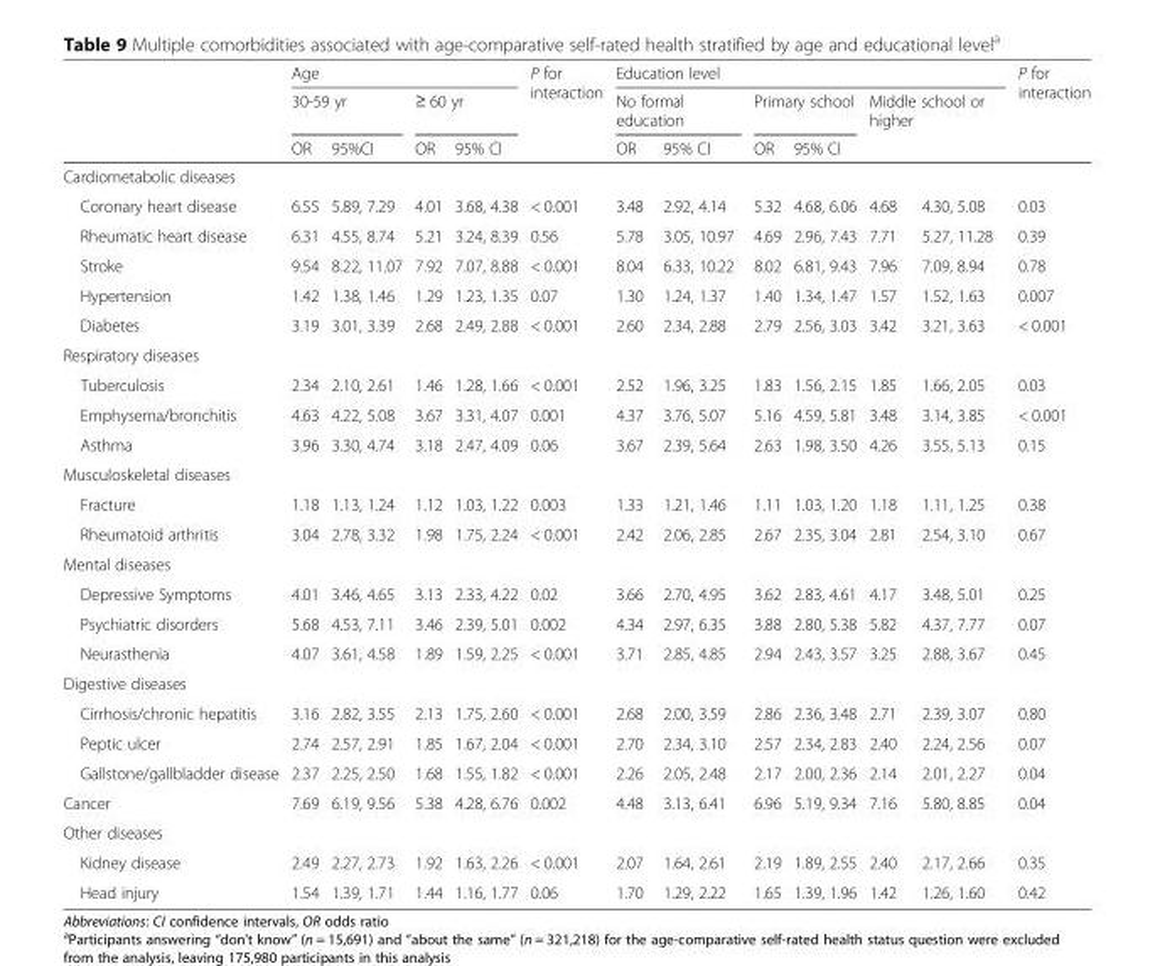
<table><thead><tr><td rowspan="3"></td><td colspan="4">Age</td><td rowspan="3">P for interaction</td><td colspan="6">Education level</td><td rowspan="3">P for interaction</td></tr><tr><td colspan="2">30-59 yr</td><td colspan="2">≥ 60 yr</td><td colspan="2">No formal education</td><td colspan="2">Primary school</td><td colspan="2">Middle school or higher</td></tr><tr><td>OR</td><td>95%CI</td><td>OR</td><td>95% CI</td><td>OR</td><td>95% CI</td><td>OR</td><td>95% CI</td><td></td><td></td></tr></thead><tbody><tr><td colspan="13">Cardiometabolic diseases</td></tr><tr><td>Coronary heart disease</td><td>6.55</td><td>5.89, 7.29</td><td>4.01</td><td>3.68, 4.38</td><td>&lt; 0.001</td><td>3.48</td><td>2.92, 4.14</td><td>5.32</td><td>4.68, 6.06</td><td>4.68</td><td>4.30, 5.08</td><td>0.03</td></tr><tr><td>Rheumatic heart disease</td><td>6.31</td><td>4.55, 8.74</td><td>5.21</td><td>3.24, 8.39</td><td>0.56</td><td>5.78</td><td>3.05, 10.97</td><td>4.69</td><td>2.96, 7.43</td><td>7.71</td><td>5.27, 11.28</td><td>0.39</td></tr><tr><td>Stroke</td><td>9.54</td><td>8.22, 11.07</td><td>7.92</td><td>7.07, 8.88</td><td>&lt; 0.001</td><td>8.04</td><td>6.33, 10.22</td><td>8.02</td><td>6.81, 9.43</td><td>7.96</td><td>7.09, 8.94</td><td>0.78</td></tr><tr><td>Hypertension</td><td>1.42</td><td>1.38, 1.46</td><td>1.29</td><td>1.23, 1.35</td><td>0.07</td><td>1.30</td><td>1.24, 1.37</td><td>1.40</td><td>1.34, 1.47</td><td>1.57</td><td>1.52, 1.63</td><td>0.007</td></tr><tr><td>Diabetes</td><td>3.19</td><td>3.01, 3.39</td><td>2.68</td><td>2.49, 2.88</td><td>&lt; 0.001</td><td>2.60</td><td>2.34, 2.88</td><td>2.79</td><td>2.56, 3.03</td><td>3.42</td><td>3.21, 3.63</td><td>&lt; 0.001</td></tr><tr><td colspan="13">Respiratory diseases</td></tr><tr><td>Tuberculosis</td><td>2.34</td><td>2.10, 2.61</td><td>1.46</td><td>1.28, 1.66</td><td>&lt; 0.001</td><td>2.52</td><td>1.96, 3.25</td><td>1.83</td><td>1.56, 2.15</td><td>1.85</td><td>1.66, 2.05</td><td>0.03</td></tr><tr><td>Emphysema/bronchitis</td><td>4.63</td><td>4.22, 5.08</td><td>3.67</td><td>3.31, 4.07</td><td>0.001</td><td>4.37</td><td>3.76, 5.07</td><td>5.16</td><td>4.59, 5.81</td><td>3.48</td><td>3.14, 3.85</td><td>&lt; 0.001</td></tr><tr><td>Asthma</td><td>3.96</td><td>3.30, 4.74</td><td>3.18</td><td>2.47, 4.09</td><td>0.06</td><td>3.67</td><td>2.39, 5.64</td><td>2.63</td><td>1.98, 3.50</td><td>4.26</td><td>3.55, 5.13</td><td>0.15</td></tr><tr><td colspan="13">Musculoskeletal diseases</td></tr><tr><td>Fracture</td><td>1.18</td><td>1.13, 1.24</td><td>1.12</td><td>1.03, 1.22</td><td>0.003</td><td>1.33</td><td>1.21, 1.46</td><td>1.11</td><td>1.03, 1.20</td><td>1.18</td><td>1.11, 1.25</td><td>0.38</td></tr><tr><td>Rheumatoid arthritis</td><td>3.04</td><td>2.78, 3.32</td><td>1.98</td><td>1.75, 2.24</td><td>&lt; 0.001</td><td>2.42</td><td>2.06, 2.85</td><td>2.67</td><td>2.35, 3.04</td><td>2.81</td><td>2.54, 3.10</td><td>0.67</td></tr><tr><td colspan="13">Mental diseases</td></tr><tr><td>Depressive Symptoms</td><td>4.01</td><td>3.46, 4.65</td><td>3.13</td><td>2.33, 4.22</td><td>0.02</td><td>3.66</td><td>2.70, 4.95</td><td>3.62</td><td>2.83, 4.61</td><td>4.17</td><td>3.48, 5.01</td><td>0.25</td></tr><tr><td>Psychiatric disorders</td><td>5.68</td><td>4.53, 7.11</td><td>3.46</td><td>2.39, 5.01</td><td>0.002</td><td>4.34</td><td>2.97, 6.35</td><td>3.88</td><td>2.80, 5.38</td><td>5.82</td><td>4.37, 7.77</td><td>0.07</td></tr><tr><td>Neurasthenia</td><td>4.07</td><td>3.61, 4.58</td><td>1.89</td><td>1.59, 2.25</td><td>&lt; 0.001</td><td>3.71</td><td>2.85, 4.85</td><td>2.94</td><td>2.43, 3.57</td><td>3.25</td><td>2.88, 3.67</td><td>0.45</td></tr><tr><td colspan="13">Digestive diseases</td></tr><tr><td>Cirrhosis/chronic hepatitis</td><td>3.16</td><td>2.82, 3.55</td><td>2.13</td><td>1.75, 2.60</td><td>&lt; 0.001</td><td>2.68</td><td>2.00, 3.59</td><td>2.86</td><td>2.36, 3.48</td><td>2.71</td><td>2.39, 3.07</td><td>0.80</td></tr><tr><td>Peptic ulcer</td><td>2.74</td><td>2.57, 2.91</td><td>1.85</td><td>1.67, 2.04</td><td>&lt; 0.001</td><td>2.70</td><td>2.34, 3.10</td><td>2.57</td><td>2.34, 2.83</td><td>2.40</td><td>2.24, 2.56</td><td>0.07</td></tr><tr><td>Gallstone/gallbladder disease</td><td>2.37</td><td>2.25, 2.50</td><td>1.68</td><td>1.55, 1.82</td><td>&lt; 0.001</td><td>2.26</td><td>2.05, 2.48</td><td>2.17</td><td>2.00, 2.36</td><td>2.14</td><td>2.01, 2.27</td><td>0.04</td></tr><tr><td>Cancer</td><td>7.69</td><td>6.19, 9.56</td><td>5.38</td><td>4.28, 6.76</td><td>0.002</td><td>4.48</td><td>3.13, 6.41</td><td>6.96</td><td>5.19, 9.34</td><td>7.16</td><td>5.80, 8.85</td><td>0.04</td></tr><tr><td colspan="13">Other diseases</td></tr><tr><td>Kidney disease</td><td>2.49</td><td>2.27, 2.73</td><td>1.92</td><td>1.63, 2.26</td><td>&lt; 0.001</td><td>2.07</td><td>1.64, 2.61</td><td>2.19</td><td>1.89, 2.55</td><td>2.40</td><td>2.17, 2.66</td><td>0.35</td></tr><tr><td>Head injury</td><td>1.54</td><td>1.39, 1.71</td><td>1.44</td><td>1.16, 1.77</td><td>0.06</td><td>1.70</td><td>1.29, 2.22</td><td>1.65</td><td>1.39, 1.96</td><td>1.42</td><td>1.26, 1.60</td><td>0.42</td></tr></tbody></table>